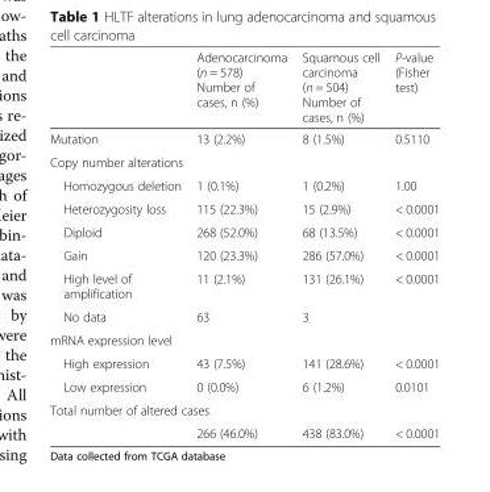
<table><thead><tr><td></td><td>Adenocarcinoma (n = 578) Number of cases, n (%)</td><td>Squamous cell carcinoma (n = 504) Number of cases, n (%)</td><td>P-value (Fisher test)</td></tr></thead><tbody><tr><td>Mutation</td><td>13 (2.2%)</td><td>8 (1.5%)</td><td>0.5110</td></tr><tr><td colspan="4">Copy number alterations</td></tr><tr><td>Homozygous deletion</td><td>1 (0.1%)</td><td>1 (0.2%)</td><td>1.00</td></tr><tr><td>Heterozygosity loss</td><td>115 (22.3%)</td><td>15 (2.9%)</td><td>&lt; 0.0001</td></tr><tr><td>Diploid</td><td>268 (52.0%)</td><td>68 (13.5%)</td><td>&lt; 0.0001</td></tr><tr><td>Gain</td><td>120 (23.3%)</td><td>286 (57.0%)</td><td>&lt; 0.0001</td></tr><tr><td>High level of amplification</td><td>11 (2.1%)</td><td>131 (26.1%)</td><td>&lt; 0.0001</td></tr><tr><td>No data</td><td>63</td><td>3</td><td></td></tr><tr><td colspan="4">mRNA expression level</td></tr><tr><td>High expression</td><td>43 (7.5%)</td><td>141 (28.6%)</td><td>&lt; 0.0001</td></tr><tr><td>Low expression</td><td>0 (0.0%)</td><td>6 (1.2%)</td><td>0.0101</td></tr><tr><td colspan="4">Total number of altered cases</td></tr><tr><td></td><td>266 (46.0%)</td><td>438 (83.0%)</td><td>&lt; 0.0001</td></tr></tbody></table>